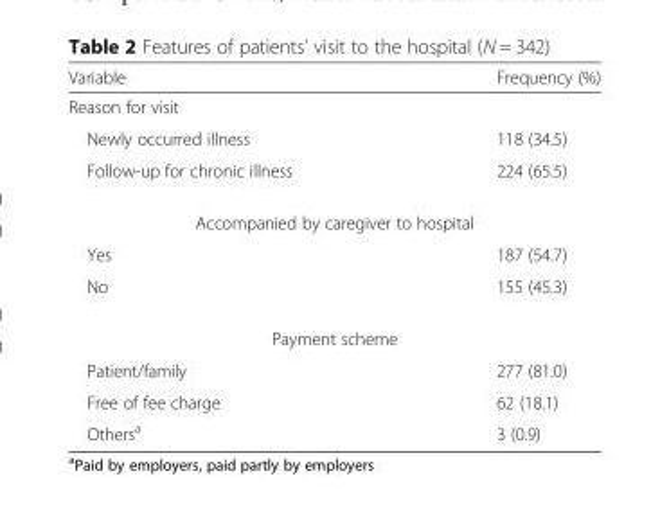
<table><thead><tr><td>Variable</td><td>Frequency (%)</td></tr></thead><tbody><tr><td colspan="2">Reason for visit</td></tr><tr><td>Newly occurred illness</td><td>118 (34.5)</td></tr><tr><td>Follow-up for chronic illness</td><td>224 (65.5)</td></tr><tr><td colspan="2">Accompanied by caregiver to hospital</td></tr><tr><td>Yes</td><td>187 (54.7)</td></tr><tr><td>No</td><td>155 (45.3)</td></tr><tr><td colspan="2">Payment scheme</td></tr><tr><td>Patient/family</td><td>277 (81.0)</td></tr><tr><td>Free of fee charge</td><td>62 (18.1)</td></tr><tr><td>Others<sup>a</sup></td><td>3 (0.9)</td></tr></tbody></table>